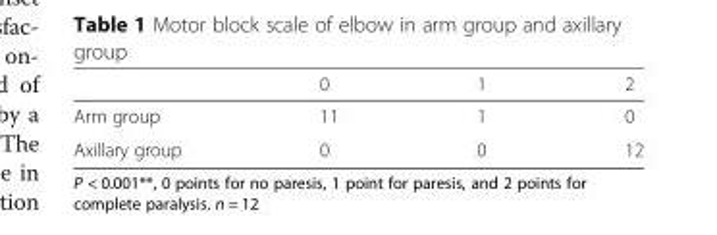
<table><thead><tr><td></td><td>0</td><td>1</td><td>2</td></tr></thead><tbody><tr><td>Arm group</td><td>11</td><td>1</td><td>0</td></tr><tr><td>Axillary group</td><td>0</td><td>0</td><td>12</td></tr></tbody></table>